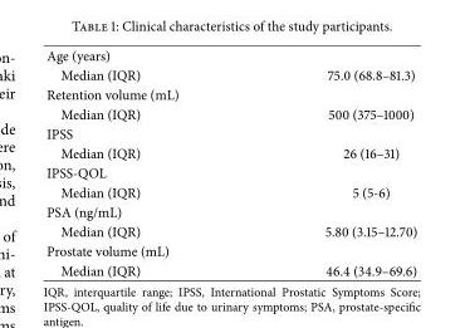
<table><tbody><tr><td colspan="2">Age (years)</td></tr><tr><td>Median (IQR)</td><td>75.0 (68.8–81.3)</td></tr><tr><td colspan="2">Retention volume (mL)</td></tr><tr><td>Median (IQR)</td><td>500 (375–1000)</td></tr><tr><td colspan="2">IPSS</td></tr><tr><td>Median (IQR)</td><td>26 (16–31)</td></tr><tr><td colspan="2">IPSS-QOL</td></tr><tr><td>Median (IQR)</td><td>5 (5-6)</td></tr><tr><td colspan="2">PSA (ng/mL)</td></tr><tr><td>Median (IQR)</td><td>5.80 (3.15–12.70)</td></tr><tr><td colspan="2">Prostate volume (mL)</td></tr><tr><td>Median (IQR)</td><td>46.4 (34.9–69.6)</td></tr></tbody></table>